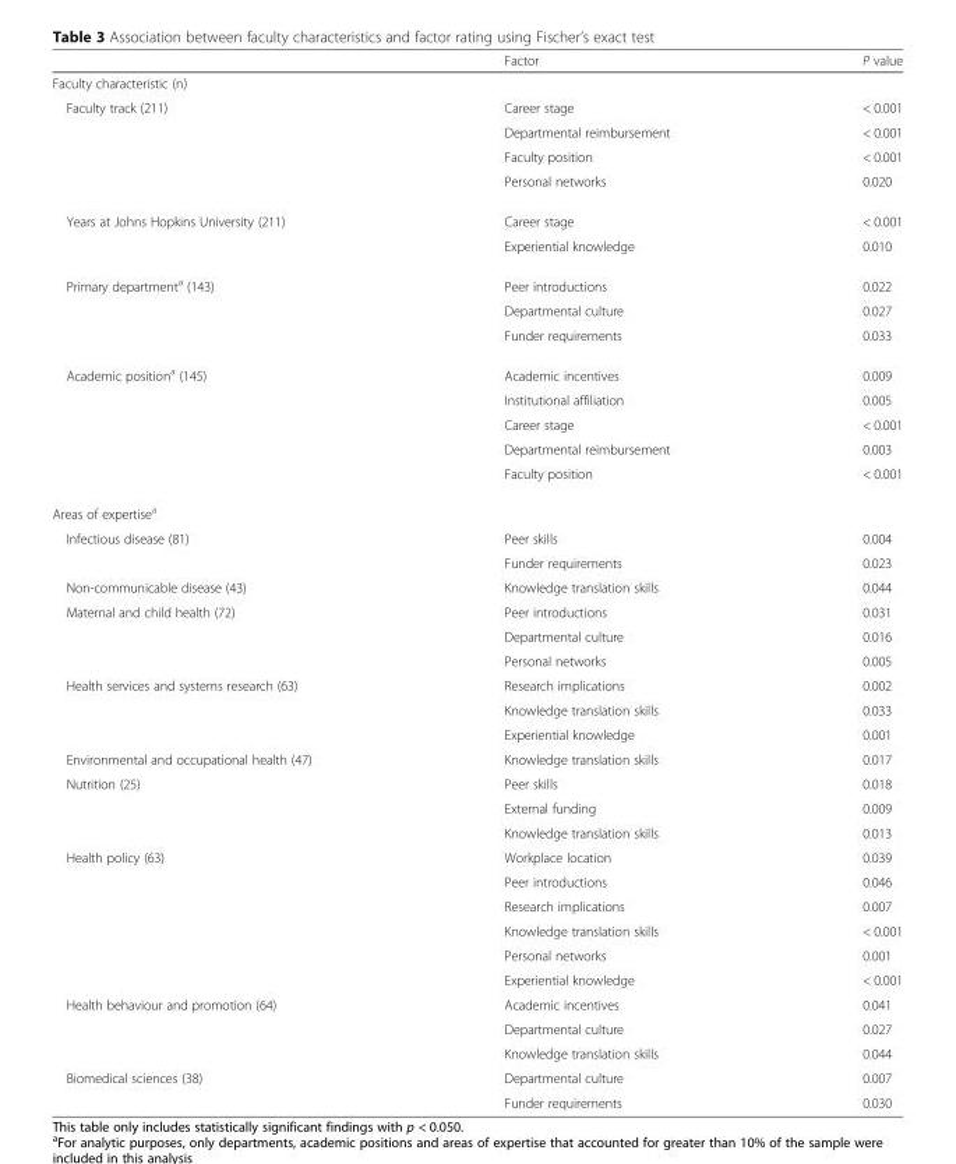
<table><thead><tr><td></td><td>Factor</td><td>P value</td></tr></thead><tbody><tr><td colspan="3">Faculty characteristic (n)</td></tr><tr><td rowspan="4">Faculty track (211)</td><td>Career stage</td><td>&lt; 0.001</td></tr><tr><td>Departmental reimbursement</td><td>&lt; 0.001</td></tr><tr><td>Faculty position</td><td>&lt; 0.001</td></tr><tr><td>Personal networks</td><td>0.020</td></tr><tr><td rowspan="2">Years at Johns Hopkins University (211)</td><td>Career stage</td><td>&lt; 0.001</td></tr><tr><td>Experiential knowledge</td><td>0.010</td></tr><tr><td rowspan="3">Primary department<sup>a</sup> (143)</td><td>Peer introductions</td><td>0.022</td></tr><tr><td>Departmental culture</td><td>0.027</td></tr><tr><td>Funder requirements</td><td>0.033</td></tr><tr><td rowspan="5">Academic position<sup>a</sup> (145)</td><td>Academic incentives</td><td>0.009</td></tr><tr><td>Institutional affiliation</td><td>0.005</td></tr><tr><td>Career stage</td><td>&lt; 0.001</td></tr><tr><td>Departmental reimbursement</td><td>0.003</td></tr><tr><td>Faculty position</td><td>&lt; 0.001</td></tr><tr><td colspan="3">Areas of expertise<sup>a</sup></td></tr><tr><td rowspan="2">Infectious disease (81)</td><td>Peer skills</td><td>0.004</td></tr><tr><td>Funder requirements</td><td>0.023</td></tr><tr><td>Non-communicable disease (43)</td><td>Knowledge translation skills</td><td>0.044</td></tr><tr><td rowspan="3">Maternal and child health (72)</td><td>Peer introductions</td><td>0.031</td></tr><tr><td>Departmental culture</td><td>0.016</td></tr><tr><td>Personal networks</td><td>0.005</td></tr><tr><td rowspan="3">Health services and systems research (63)</td><td>Research implications</td><td>0.002</td></tr><tr><td>Knowledge translation skills</td><td>0.033</td></tr><tr><td>Experiential knowledge</td><td>0.001</td></tr><tr><td>Environmental and occupational health (47)</td><td>Knowledge translation skills</td><td>0.017</td></tr><tr><td rowspan="3">Nutrition (25)</td><td>Peer skills</td><td>0.018</td></tr><tr><td>External funding</td><td>0.009</td></tr><tr><td>Knowledge translation skills</td><td>0.013</td></tr><tr><td rowspan="6">Health policy (63)</td><td>Workplace location</td><td>0.039</td></tr><tr><td>Peer introductions</td><td>0.046</td></tr><tr><td>Research implications</td><td>0.007</td></tr><tr><td>Knowledge translation skills</td><td>&lt; 0.001</td></tr><tr><td>Personal networks</td><td>0.001</td></tr><tr><td>Experiential knowledge</td><td>&lt; 0.001</td></tr><tr><td rowspan="3">Health behaviour and promotion (64)</td><td>Academic incentives</td><td>0.041</td></tr><tr><td>Departmental culture</td><td>0.027</td></tr><tr><td>Knowledge translation skills</td><td>0.044</td></tr><tr><td rowspan="2">Biomedical sciences (38)</td><td>Departmental culture</td><td>0.007</td></tr><tr><td>Funder requirements</td><td>0.030</td></tr></tbody></table>